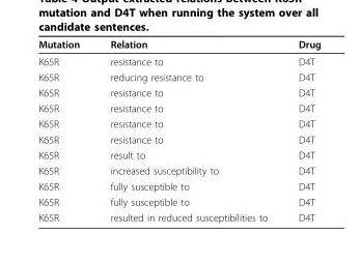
<table><thead><tr><td>Mutation</td><td>Relation</td><td>Drug</td></tr></thead><tbody><tr><td>K65R</td><td>resistance to</td><td>D4T</td></tr><tr><td>K65R</td><td>reducing resistance to</td><td>D4T</td></tr><tr><td>K65R</td><td>resistance to</td><td>D4T</td></tr><tr><td>K65R</td><td>resistance to</td><td>D4T</td></tr><tr><td>K65R</td><td>resistance to</td><td>D4T</td></tr><tr><td>K65R</td><td>resistance to</td><td>D4T</td></tr><tr><td>K65R</td><td>result to</td><td>D4T</td></tr><tr><td>K65R</td><td>increased susceptibility to</td><td>D4T</td></tr><tr><td>K65R</td><td>fully susceptible to</td><td>D4T</td></tr><tr><td>K65R</td><td>fully susceptible to</td><td>D4T</td></tr><tr><td>K65R</td><td>resulted in reduced susceptibilities to</td><td>D4T</td></tr></tbody></table>